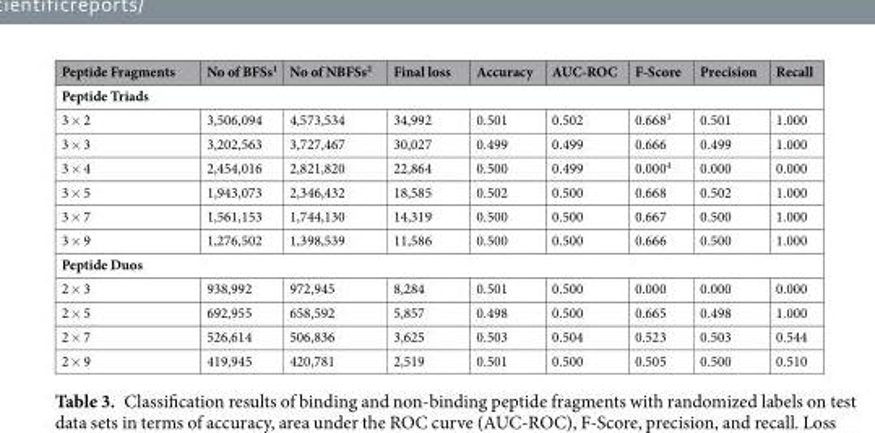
<table><thead><tr><td>Peptide Fragments</td><td>No of BFSs<sup>1</sup></td><td>No of NBFSs<sup>2</sup></td><td>Final loss</td><td>Accuracy</td><td>AUC-ROC</td><td>F-Score</td><td>Precision</td><td>Recall</td></tr></thead><tbody><tr><td colspan="9">Peptide Triads</td></tr><tr><td>3 × 2</td><td>3,506,094</td><td>4,573,534</td><td>34,992</td><td>0.501</td><td>0.502</td><td>0.668<sup>3</sup></td><td>0.501</td><td>1.000</td></tr><tr><td>3 × 3</td><td>3,202,563</td><td>3,727,467</td><td>30,027</td><td>0.499</td><td>0.499</td><td>0.666</td><td>0.499</td><td>1.000</td></tr><tr><td>3 × 4</td><td>2,454,016</td><td>2,821,820</td><td>22,864</td><td>0.500</td><td>0.499</td><td>0.000<sup>4</sup></td><td>0.000</td><td>0.000</td></tr><tr><td>3 × 5</td><td>1,943,073</td><td>2,346,432</td><td>18,585</td><td>0.502</td><td>0.500</td><td>0.668</td><td>0.502</td><td>1.000</td></tr><tr><td>3 × 7</td><td>1,561,153</td><td>1,744,130</td><td>14,319</td><td>0.500</td><td>0.500</td><td>0.667</td><td>0.500</td><td>1.000</td></tr><tr><td>3 × 9</td><td>1,276,502</td><td>1,398,539</td><td>11,586</td><td>0.500</td><td>0.500</td><td>0.666</td><td>0.500</td><td>1.000</td></tr><tr><td colspan="9">Peptide Duos</td></tr><tr><td>2 × 3</td><td>938,992</td><td>972,945</td><td>8,284</td><td>0.501</td><td>0.500</td><td>0.000</td><td>0.000</td><td>0.000</td></tr><tr><td>2 × 5</td><td>692,955</td><td>658,592</td><td>5,857</td><td>0.498</td><td>0.500</td><td>0.665</td><td>0.498</td><td>1.000</td></tr><tr><td>2 × 7</td><td>526,614</td><td>506,836</td><td>3,625</td><td>0.503</td><td>0.504</td><td>0.523</td><td>0.503</td><td>0.544</td></tr><tr><td>2 × 9</td><td>419,945</td><td>420,781</td><td>2,519</td><td>0.501</td><td>0.500</td><td>0.505</td><td>0.500</td><td>0.510</td></tr></tbody></table>